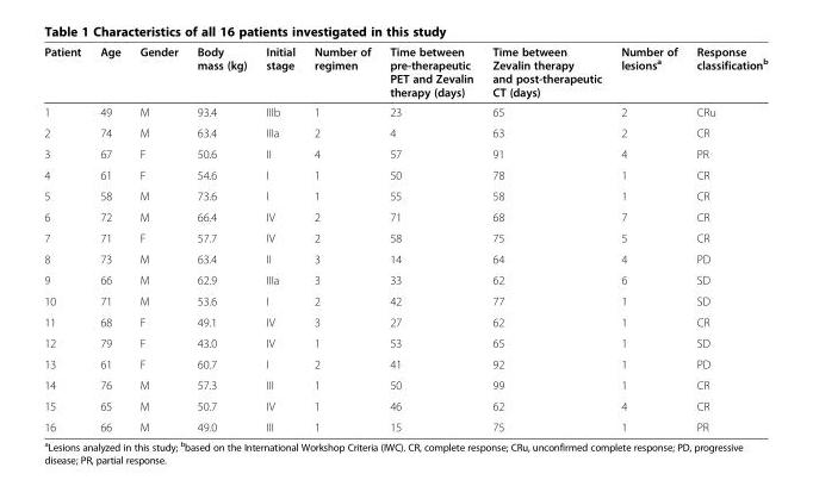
<table><thead><tr><td>Patient</td><td>Age</td><td>Gender</td><td>Body mass (kg)</td><td>Initial stage</td><td>Number of regimen</td><td>Time between pre-therapeutic PET and Zevalin therapy (days)</td><td>Time between Zevalin therapy and post-therapeutic CT (days)</td><td>Number of lesions<sup>a</sup></td><td>Response classification<sup>b</sup></td></tr></thead><tbody><tr><td>1</td><td>49</td><td>M</td><td>93.4</td><td>IIIb</td><td>1</td><td>23</td><td>65</td><td>2</td><td>CRu</td></tr><tr><td>2</td><td>74</td><td>M</td><td>63.4</td><td>IIIa</td><td>2</td><td>4</td><td>63</td><td>2</td><td>CR</td></tr><tr><td>3</td><td>67</td><td>F</td><td>50.6</td><td>II</td><td>4</td><td>57</td><td>91</td><td>4</td><td>PR</td></tr><tr><td>4</td><td>61</td><td>F</td><td>54.6</td><td>I</td><td>1</td><td>50</td><td>78</td><td>1</td><td>CR</td></tr><tr><td>5</td><td>58</td><td>M</td><td>73.6</td><td>I</td><td>1</td><td>55</td><td>58</td><td>1</td><td>CR</td></tr><tr><td>6</td><td>72</td><td>M</td><td>66.4</td><td>IV</td><td>2</td><td>71</td><td>68</td><td>7</td><td>CR</td></tr><tr><td>7</td><td>71</td><td>F</td><td>57.7</td><td>IV</td><td>2</td><td>58</td><td>75</td><td>5</td><td>CR</td></tr><tr><td>8</td><td>73</td><td>M</td><td>63.4</td><td>II</td><td>3</td><td>14</td><td>64</td><td>4</td><td>PD</td></tr><tr><td>9</td><td>66</td><td>M</td><td>62.9</td><td>IIIa</td><td>3</td><td>33</td><td>62</td><td>6</td><td>SD</td></tr><tr><td>10</td><td>71</td><td>M</td><td>53.6</td><td>I</td><td>2</td><td>42</td><td>77</td><td>1</td><td>SD</td></tr><tr><td>11</td><td>68</td><td>F</td><td>49.1</td><td>IV</td><td>3</td><td>27</td><td>62</td><td>1</td><td>CR</td></tr><tr><td>12</td><td>79</td><td>F</td><td>43.0</td><td>IV</td><td>1</td><td>53</td><td>65</td><td>1</td><td>SD</td></tr><tr><td>13</td><td>61</td><td>F</td><td>60.7</td><td>I</td><td>2</td><td>41</td><td>92</td><td>1</td><td>PD</td></tr><tr><td>14</td><td>76</td><td>M</td><td>57.3</td><td>III</td><td>1</td><td>50</td><td>99</td><td>1</td><td>CR</td></tr><tr><td>15</td><td>65</td><td>M</td><td>50.7</td><td>IV</td><td>1</td><td>46</td><td>62</td><td>4</td><td>CR</td></tr><tr><td>16</td><td>66</td><td>M</td><td>49.0</td><td>III</td><td>1</td><td>15</td><td>75</td><td>1</td><td>PR</td></tr></tbody></table>